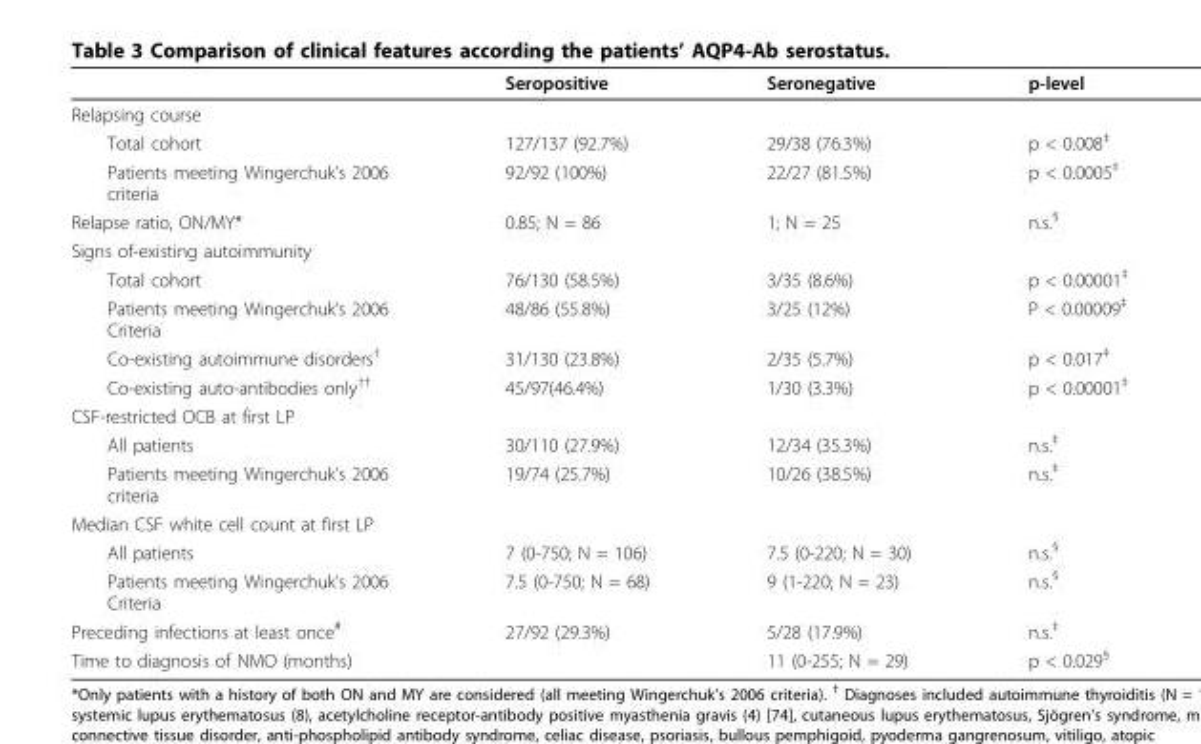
<table><thead><tr><td></td><td>Seropositive</td><td>Seronegative</td><td>p-level</td></tr></thead><tbody><tr><td colspan="4">Relapsing course</td></tr><tr><td>Total cohort</td><td>127/137 (92.7%)</td><td>29/38 (76.3%)</td><td>p &lt; 0.008<sup>‡</sup></td></tr><tr><td>Patients meeting Wingerchuk’s 2006 criteria</td><td>92/92 (100%)</td><td>22/27 (81.5%)</td><td>p &lt; 0.0005<sup>‡</sup></td></tr><tr><td>Relapse ratio, ON/MY*</td><td>0.85; N = 86</td><td>1; N = 25</td><td>n.s.<sup>§</sup></td></tr><tr><td colspan="4">Signs of-existing autoimmunity</td></tr><tr><td>Total cohort</td><td>76/130 (58.5%)</td><td>3/35 (8.6%)</td><td>p &lt; 0.00001<sup>‡</sup></td></tr><tr><td>Patients meeting Wingerchuk’s 2006 Criteria</td><td>48/86 (55.8%)</td><td>3/25 (12%)</td><td>P &lt; 0.00009<sup>‡</sup></td></tr><tr><td>Co-existing autoimmune disorders<sup>†</sup></td><td>31/130 (23.8%)</td><td>2/35 (5.7%)</td><td>p &lt; 0.017<sup>‡</sup></td></tr><tr><td>Co-existing auto-antibodies only<sup>††</sup></td><td>45/97(46.4%)</td><td>1/30 (3.3%)</td><td>p &lt; 0.00001<sup>‡</sup></td></tr><tr><td colspan="4">CSF-restricted OCB at first LP</td></tr><tr><td>All patients</td><td>30/110 (27.9%)</td><td>12/34 (35.3%)</td><td>n.s.<sup>‡</sup></td></tr><tr><td>Patients meeting Wingerchuk’s 2006 criteria</td><td>19/74 (25.7%)</td><td>10/26 (38.5%)</td><td>n.s.<sup>‡</sup></td></tr><tr><td colspan="4">Median CSF white cell count at first LP</td></tr><tr><td>All patients</td><td>7 (0-750; N = 106)</td><td>7.5 (0-220; N = 30)</td><td>n.s.<sup>§</sup></td></tr><tr><td>Patients meeting Wingerchuk’s 2006 Criteria</td><td>7.5 (0-750; N = 68)</td><td>9 (1-220; N = 23)</td><td>n.s.<sup>§</sup></td></tr><tr><td>Preceding infections at least once<sup>#</sup></td><td>27/92 (29.3%)</td><td>5/28 (17.9%)</td><td>n.s.<sup>‡</sup></td></tr><tr><td>Time to diagnosis of NMO (months)</td><td></td><td>11 (0-255; N = 29)</td><td>p &lt; 0.029<sup>§</sup></td></tr></tbody></table>